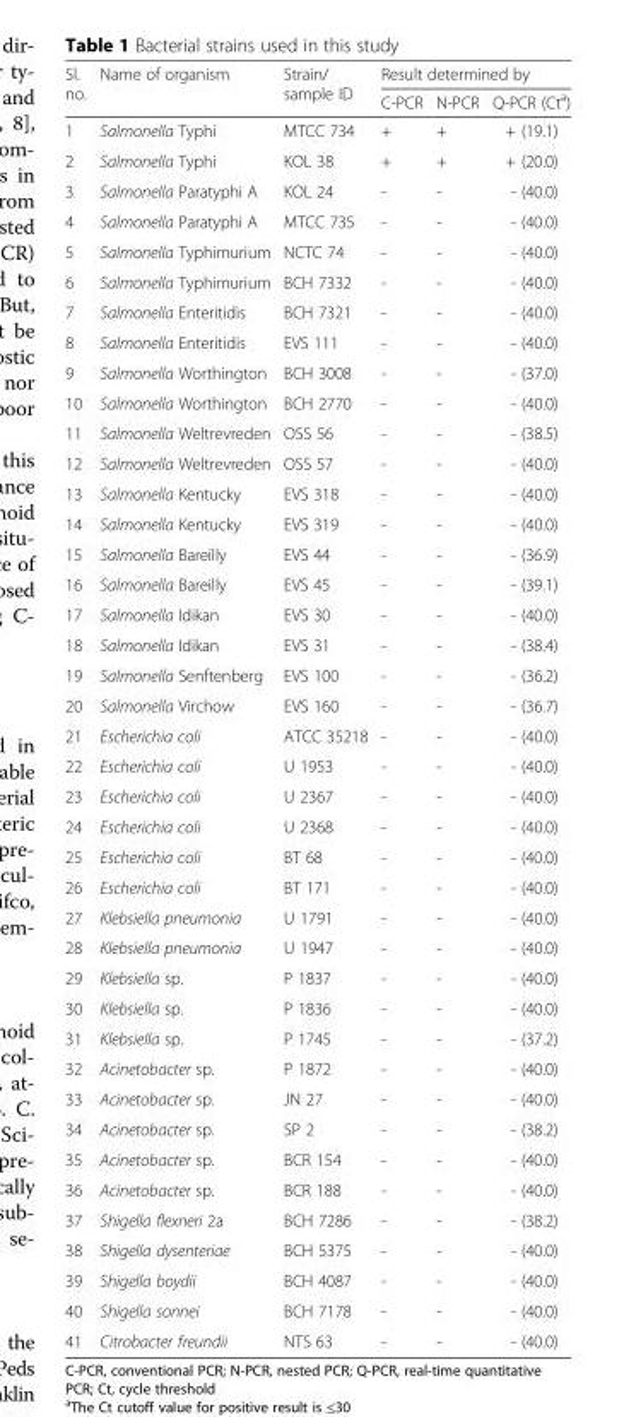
<table><thead><tr><td rowspan="2">Sl. no.</td><td rowspan="2">Name of organism</td><td rowspan="2">Strain/ sample ID</td><td colspan="3">Result determined by</td></tr><tr><td>C-PCR</td><td>N-PCR</td><td>Q-PCR (Ct<sup>a</sup>)</td></tr></thead><tbody><tr><td>1</td><td>Salmonella Typhi</td><td>MTCC 734</td><td>+</td><td>+</td><td>+ (19.1)</td></tr><tr><td>2</td><td>Salmonella Typhi</td><td>KOL 38</td><td>+</td><td>+</td><td>+ (20.0)</td></tr><tr><td>3</td><td>Salmonella Paratyphi A</td><td>KOL 24</td><td>-</td><td>-</td><td>- (40.0)</td></tr><tr><td>4</td><td>Salmonella Paratyphi A</td><td>MTCC 735</td><td>-</td><td>-</td><td>- (40.0)</td></tr><tr><td>5</td><td>Salmonella Typhimurium</td><td>NCTC 74</td><td>-</td><td>-</td><td>- (40.0)</td></tr><tr><td>6</td><td>Salmonella Typhimurium</td><td>BCH 7332</td><td>-</td><td>-</td><td>- (40.0)</td></tr><tr><td>7</td><td>Salmonella Enteritidis</td><td>BCH 7321</td><td>-</td><td>-</td><td>- (40.0)</td></tr><tr><td>8</td><td>Salmonella Enteritidis</td><td>EVS 111</td><td>-</td><td>-</td><td>- (40.0)</td></tr><tr><td>9</td><td>Salmonella Worthington</td><td>BCH 3008</td><td>-</td><td>-</td><td>- (37.0)</td></tr><tr><td>10</td><td>Salmonella Worthington</td><td>BCH 2770</td><td>-</td><td>-</td><td>- (40.0)</td></tr><tr><td>11</td><td>Salmonella Weltrevreden</td><td>OSS 56</td><td>-</td><td>-</td><td>- (38.5)</td></tr><tr><td>12</td><td>Salmonella Weltrevreden</td><td>OSS 57</td><td>-</td><td>-</td><td>- (40.0)</td></tr><tr><td>13</td><td>Salmonella Kentucky</td><td>EVS 318</td><td>-</td><td>-</td><td>- (40.0)</td></tr><tr><td>14</td><td>Salmonella Kentucky</td><td>EVS 319</td><td>-</td><td>-</td><td>- (40.0)</td></tr><tr><td>15</td><td>Salmonella Bareilly</td><td>EVS 44</td><td>-</td><td>-</td><td>- (36.9)</td></tr><tr><td>16</td><td>Salmonella Bareilly</td><td>EVS 45</td><td>-</td><td>-</td><td>- (39.1)</td></tr><tr><td>17</td><td>Salmonella Idikan</td><td>EVS 30</td><td>-</td><td>-</td><td>- (40.0)</td></tr><tr><td>18</td><td>Salmonella Idikan</td><td>EVS 31</td><td>-</td><td>-</td><td>- (38.4)</td></tr><tr><td>19</td><td>Salmonella Senftenberg</td><td>EVS 100</td><td>-</td><td>-</td><td>- (36.2)</td></tr><tr><td>20</td><td>Salmonella Virchow</td><td>EVS 160</td><td>-</td><td>-</td><td>- (36.7)</td></tr><tr><td>21</td><td>Escherichia coli</td><td>ATCC 35218</td><td>-</td><td>-</td><td>- (40.0)</td></tr><tr><td>22</td><td>Escherichia coli</td><td>U 1953</td><td>-</td><td>-</td><td>- (40.0)</td></tr><tr><td>23</td><td>Escherichia coli</td><td>U 2367</td><td>-</td><td>-</td><td>- (40.0)</td></tr><tr><td>24</td><td>Escherichia coli</td><td>U 2368</td><td>-</td><td>-</td><td>- (40.0)</td></tr><tr><td>25</td><td>Escherichia coli</td><td>BT 68</td><td>-</td><td>-</td><td>- (40.0)</td></tr><tr><td>26</td><td>Escherichia coli</td><td>BT 171</td><td>-</td><td>-</td><td>- (40.0)</td></tr><tr><td>27</td><td>Klebsiella pneumonia</td><td>U 1791</td><td>-</td><td>-</td><td>- (40.0)</td></tr><tr><td>28</td><td>Klebsiella pneumonia</td><td>U 1947</td><td>-</td><td>-</td><td>- (40.0)</td></tr><tr><td>29</td><td>Klebsiella sp.</td><td>P 1837</td><td>-</td><td>-</td><td>- (40.0)</td></tr><tr><td>30</td><td>Klebsiella sp.</td><td>P 1836</td><td>-</td><td>-</td><td>- (40.0)</td></tr><tr><td>31</td><td>Klebsiella sp.</td><td>P 1745</td><td>-</td><td>-</td><td>- (37.2)</td></tr><tr><td>32</td><td>Acinetobacter sp.</td><td>P 1872</td><td>-</td><td>-</td><td>- (40.0)</td></tr><tr><td>33</td><td>Acinetobacter sp.</td><td>JN 27</td><td>-</td><td>-</td><td>- (40.0)</td></tr><tr><td>34</td><td>Acinetobacter sp.</td><td>SP 2</td><td>-</td><td>-</td><td>- (38.2)</td></tr><tr><td>35</td><td>Acinetobacter sp.</td><td>BCR 154</td><td>-</td><td>-</td><td>- (40.0)</td></tr><tr><td>36</td><td>Acinetobacter sp.</td><td>BCR 188</td><td>-</td><td>-</td><td>- (40.0)</td></tr><tr><td>37</td><td>Shigella flexneri 2a</td><td>BCH 7286</td><td>-</td><td>-</td><td>- (38.2)</td></tr><tr><td>38</td><td>Shigella dysenteriae</td><td>BCH 5375</td><td>-</td><td>-</td><td>- (40.0)</td></tr><tr><td>39</td><td>Shigella boydii</td><td>BCH 4087</td><td>-</td><td>-</td><td>- (40.0)</td></tr><tr><td>40</td><td>Shigella sonnei</td><td>BCH 7178</td><td>-</td><td>-</td><td>- (40.0)</td></tr><tr><td>41</td><td>Citrobacter freundii</td><td>NTS 63</td><td>-</td><td>-</td><td>- (40.0)</td></tr></tbody></table>